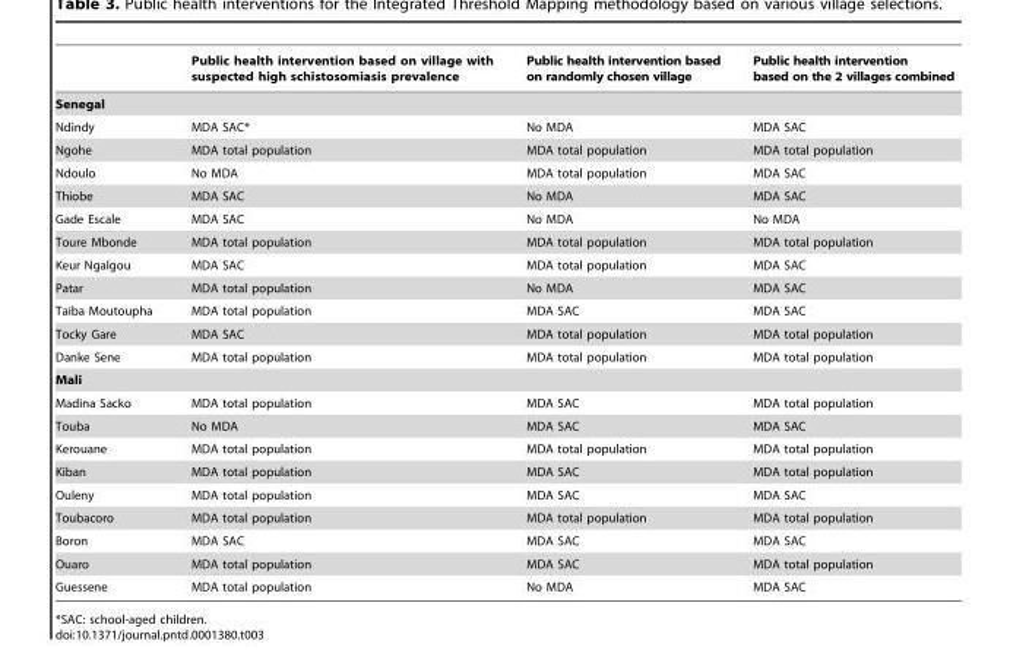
<table><thead><tr><td></td><td>Public health intervention based on village with suspected high schistosomiasis prevalence</td><td>Public health intervention based on randomly chosen village</td><td>Public health intervention based on the 2 villages combined</td></tr></thead><tbody><tr><td colspan="4">Senegal</td></tr><tr><td>Ndindy</td><td>MDA SAC*</td><td>No MDA</td><td>MDA SAC</td></tr><tr><td>Ngohe</td><td>MDA total population</td><td>MDA total population</td><td>MDA total population</td></tr><tr><td>Ndoulo</td><td>No MDA</td><td>MDA total population</td><td>MDA SAC</td></tr><tr><td>Thiobe</td><td>MDA SAC</td><td>No MDA</td><td>MDA SAC</td></tr><tr><td>Gade Escale</td><td>MDA SAC</td><td>No MDA</td><td>No MDA</td></tr><tr><td>Toure Mbonde</td><td>MDA total population</td><td>MDA total population</td><td>MDA total population</td></tr><tr><td>Keur Ngalgou</td><td>MDA SAC</td><td>MDA total population</td><td>MDA SAC</td></tr><tr><td>Patar</td><td>MDA total population</td><td>No MDA</td><td>MDA SAC</td></tr><tr><td>Taiba Moutoupha</td><td>MDA total population</td><td>MDA SAC</td><td>MDA SAC</td></tr><tr><td>Tocky Gare</td><td>MDA SAC</td><td>MDA total population</td><td>MDA total population</td></tr><tr><td>Danke Sene</td><td>MDA total population</td><td>MDA total population</td><td>MDA total population</td></tr><tr><td colspan="4">Mali</td></tr><tr><td>Madina Sacko</td><td>MDA total population</td><td>MDA SAC</td><td>MDA total population</td></tr><tr><td>Touba</td><td>No MDA</td><td>MDA SAC</td><td>MDA SAC</td></tr><tr><td>Kerouane</td><td>MDA total population</td><td>MDA total population</td><td>MDA total population</td></tr><tr><td>Kiban</td><td>MDA total population</td><td>MDA SAC</td><td>MDA total population</td></tr><tr><td>Ouleny</td><td>MDA total population</td><td>MDA SAC</td><td>MDA SAC</td></tr><tr><td>Toubacoro</td><td>MDA total population</td><td>MDA total population</td><td>MDA total population</td></tr><tr><td>Boron</td><td>MDA SAC</td><td>MDA SAC</td><td>MDA SAC</td></tr><tr><td>Ouaro</td><td>MDA total population</td><td>MDA SAC</td><td>MDA total population</td></tr><tr><td>Guessene</td><td>MDA total population</td><td>No MDA</td><td>MDA SAC</td></tr></tbody></table>